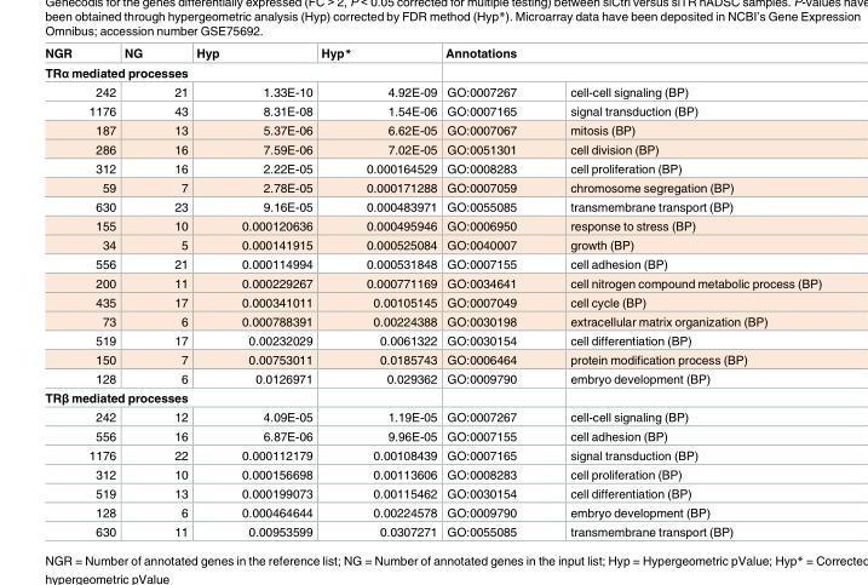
<table><thead><tr><td>NGR</td><td>NG</td><td>Hyp</td><td>Hyp*</td><td rowspan="2" colspan="2">Annotations</td></tr><tr><td colspan="4">TRα mediated processes</td></tr><tr><td>242</td><td>21</td><td>1.33E-10</td><td>4.92E-09</td><td>GO:0007267</td><td>cell-cell signaling (BP)</td></tr></thead><tbody><tr><td>1176</td><td>43</td><td>8.31E-08</td><td>1.54E-06</td><td>GO:0007165</td><td>signal transduction (BP)</td></tr><tr><td>187</td><td>13</td><td>5.37E-06</td><td>6.62E-05</td><td>GO:0007067</td><td>mitosis (BP)</td></tr><tr><td>286</td><td>16</td><td>7.59E-06</td><td>7.02E-05</td><td>GO:0051301</td><td>cell division (BP)</td></tr><tr><td>312</td><td>16</td><td>2.22E-05</td><td>0.000164529</td><td>GO:0008283</td><td>cell proliferation (BP)</td></tr><tr><td>59</td><td>7</td><td>2.78E-05</td><td>0.000171288</td><td>GO:0007059</td><td>chromosome segregation (BP)</td></tr><tr><td>630</td><td>23</td><td>9.16E-05</td><td>0.000483971</td><td>GO:0055085</td><td>transmembrane transport (BP)</td></tr><tr><td>155</td><td>10</td><td>0.000120636</td><td>0.000495946</td><td>GO:0006950</td><td>response to stress (BP)</td></tr><tr><td>34</td><td>5</td><td>0.000141915</td><td>0.000525084</td><td>GO:0040007</td><td>growth (BP)</td></tr><tr><td>556</td><td>21</td><td>0.000114994</td><td>0.000531848</td><td>GO:0007155</td><td>cell adhesion (BP)</td></tr><tr><td>200</td><td>11</td><td>0.000229267</td><td>0.000771169</td><td>GO:0034641</td><td>cell nitrogen compound metabolic process (BP)</td></tr><tr><td>435</td><td>17</td><td>0.000341011</td><td>0.00105145</td><td>GO:0007049</td><td>cell cycle (BP)</td></tr><tr><td>73</td><td>6</td><td>0.000788391</td><td>0.00224388</td><td>GO:0030198</td><td>extracellular matrix organization (BP)</td></tr><tr><td>519</td><td>17</td><td>0.00232029</td><td>0.0061322</td><td>GO:0030154</td><td>cell differentiation (BP)</td></tr><tr><td>150</td><td>7</td><td>0.00753011</td><td>0.0185743</td><td>GO:0006464</td><td>protein modification process (BP)</td></tr><tr><td>128</td><td>6</td><td>0.0126971</td><td>0.029362</td><td>GO:0009790</td><td>embryo development (BP)</td></tr><tr><td colspan="6">TRβ mediated processes</td></tr><tr><td>242</td><td>12</td><td>4.09E-05</td><td>1.19E-05</td><td>GO:0007267</td><td>cell-cell signaling (BP)</td></tr><tr><td>556</td><td>16</td><td>6.87E-06</td><td>9.96E-05</td><td>GO:0007155</td><td>cell adhesion (BP)</td></tr><tr><td>1176</td><td>22</td><td>0.000112179</td><td>0.00108439</td><td>GO:0007165</td><td>signal transduction (BP)</td></tr><tr><td>312</td><td>10</td><td>0.000156698</td><td>0.00113606</td><td>GO:0008283</td><td>cell proliferation (BP)</td></tr><tr><td>519</td><td>13</td><td>0.000199073</td><td>0.00115462</td><td>GO:0030154</td><td>cell differentiation (BP)</td></tr><tr><td>128</td><td>6</td><td>0.000464644</td><td>0.00224578</td><td>GO:0009790</td><td>embryo development (BP)</td></tr><tr><td>630</td><td>11</td><td>0.00953599</td><td>0.0307271</td><td>GO:0055085</td><td>transmembrane transport (BP)</td></tr></tbody></table>